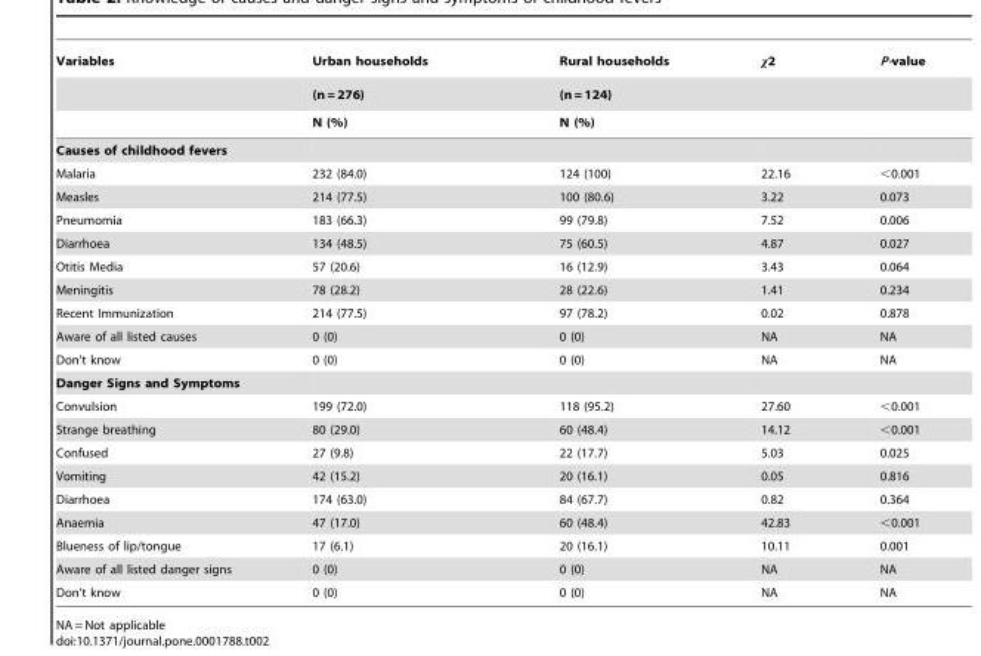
<table><thead><tr><td rowspan="3">Variables</td><td rowspan="3">Urban households (n = 276) N (%)</td><td rowspan="3">Rural households (n = 124) N (%)</td><td rowspan="3">χ2</td><td rowspan="3">P-value</td></tr><tr></tr><tr></tr></thead><tbody><tr><td colspan="5">Causes of childhood fevers</td></tr><tr><td>Malaria</td><td>232 (84.0)</td><td>124 (100)</td><td>22.16</td><td>&lt;0.001</td></tr><tr><td>Measles</td><td>214 (77.5)</td><td>100 (80.6)</td><td>3.22</td><td>0.073</td></tr><tr><td>Pneumomia</td><td>183 (66.3)</td><td>99 (79.8)</td><td>7.52</td><td>0.006</td></tr><tr><td>Diarrhoea</td><td>134 (48.5)</td><td>75 (60.5)</td><td>4.87</td><td>0.027</td></tr><tr><td>Otitis Media</td><td>57 (20.6)</td><td>16 (12.9)</td><td>3.43</td><td>0.064</td></tr><tr><td>Meningitis</td><td>78 (28.2)</td><td>28 (22.6)</td><td>1.41</td><td>0.234</td></tr><tr><td>Recent Immunization</td><td>214 (77.5)</td><td>97 (78.2)</td><td>0.02</td><td>0.878</td></tr><tr><td>Aware of all listed causes</td><td>0 (0)</td><td>0 (0)</td><td>NA</td><td>NA</td></tr><tr><td>Don’t know</td><td>0 (0)</td><td>0 (0)</td><td>NA</td><td>NA</td></tr><tr><td colspan="5">Danger Signs and Symptoms</td></tr><tr><td>Convulsion</td><td>199 (72.0)</td><td>118 (95.2)</td><td>27.60</td><td>&lt;0.001</td></tr><tr><td>Strange breathing</td><td>80 (29.0)</td><td>60 (48.4)</td><td>14.12</td><td>&lt;0.001</td></tr><tr><td>Confused</td><td>27 (9.8)</td><td>22 (17.7)</td><td>5.03</td><td>0.025</td></tr><tr><td>Vomiting</td><td>42 (15.2)</td><td>20 (16.1)</td><td>0.05</td><td>0.816</td></tr><tr><td>Diarrhoea</td><td>174 (63.0)</td><td>84 (67.7)</td><td>0.82</td><td>0.364</td></tr><tr><td>Anaemia</td><td>47 (17.0)</td><td>60 (48.4)</td><td>42.83</td><td>&lt;0.001</td></tr><tr><td>Blueness of lip/tongue</td><td>17 (6.1)</td><td>20 (16.1)</td><td>10.11</td><td>0.001</td></tr><tr><td>Aware of all listed danger signs</td><td>0 (0)</td><td>0 (0)</td><td>NA</td><td>NA</td></tr><tr><td>Don’t know</td><td>0 (0)</td><td>0 (0)</td><td>NA</td><td>NA</td></tr></tbody></table>